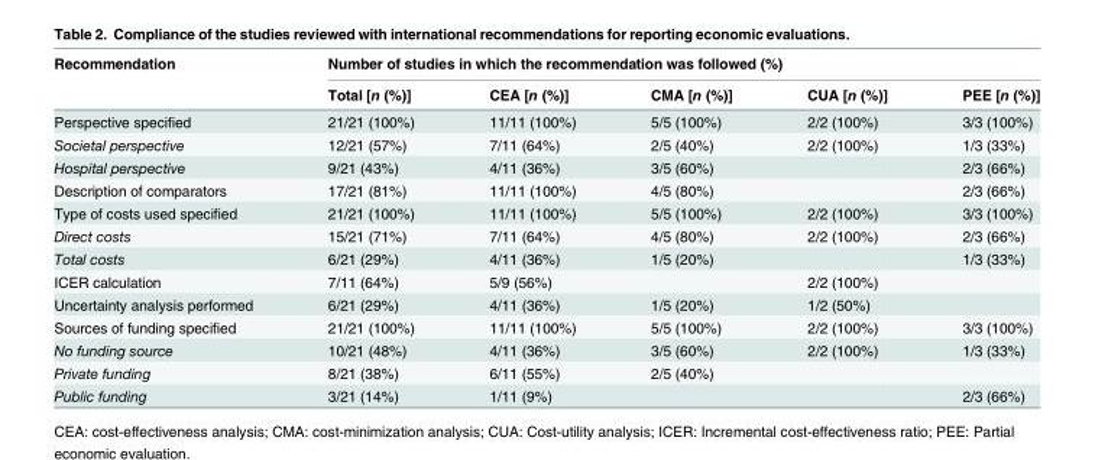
<table><thead><tr><td rowspan="2">Recommendation</td><td colspan="5">Number of studies in which the recommendation was followed (%)</td></tr><tr><td>Total [n (%)]</td><td>CEA [n (%)]</td><td>CMA [n (%)]</td><td>CUA [n (%)]</td><td>PEE [n (%)]</td></tr></thead><tbody><tr><td>Perspective specified</td><td>21/21 (100%)</td><td>11/11 (100%)</td><td>5/5 (100%)</td><td>2/2 (100%)</td><td>3/3 (100%)</td></tr><tr><td>Societal perspective</td><td>12/21 (57%)</td><td>7/11 (64%)</td><td>2/5 (40%)</td><td>2/2 (100%)</td><td>1/3 (33%)</td></tr><tr><td>Hospital perspective</td><td>9/21 (43%)</td><td>4/11 (36%)</td><td>3/5 (60%)</td><td></td><td>2/3 (66%)</td></tr><tr><td>Description of comparators</td><td>17/21 (81%)</td><td>11/11 (100%)</td><td>4/5 (80%)</td><td></td><td>2/3 (66%)</td></tr><tr><td>Type of costs used specified</td><td>21/21 (100%)</td><td>11/11 (100%)</td><td>5/5 (100%)</td><td>2/2 (100%)</td><td>3/3 (100%)</td></tr><tr><td>Direct costs</td><td>15/21 (71%)</td><td>7/11 (64%)</td><td>4/5 (80%)</td><td>2/2 (100%)</td><td>2/3 (66%)</td></tr><tr><td>Total costs</td><td>6/21 (29%)</td><td>4/11 (36%)</td><td>1/5 (20%)</td><td></td><td>1/3 (33%)</td></tr><tr><td>ICER calculation</td><td>7/11 (64%)</td><td>5/9 (56%)</td><td></td><td>2/2 (100%)</td><td></td></tr><tr><td>Uncertainty analysis performed</td><td>6/21 (29%)</td><td>4/11 (36%)</td><td>1/5 (20%)</td><td>1/2 (50%)</td><td></td></tr><tr><td>Sources of funding specified</td><td>21/21 (100%)</td><td>11/11 (100%)</td><td>5/5 (100%)</td><td>2/2 (100%)</td><td>3/3 (100%)</td></tr><tr><td>No funding source</td><td>10/21 (48%)</td><td>4/11 (36%)</td><td>3/5 (60%)</td><td>2/2 (100%)</td><td>1/3 (33%)</td></tr><tr><td>Private funding</td><td>8/21 (38%)</td><td>6/11 (55%)</td><td>2/5 (40%)</td><td></td><td></td></tr><tr><td>Public funding</td><td>3/21 (14%)</td><td>1/11 (9%)</td><td></td><td></td><td>2/3 (66%)</td></tr></tbody></table>